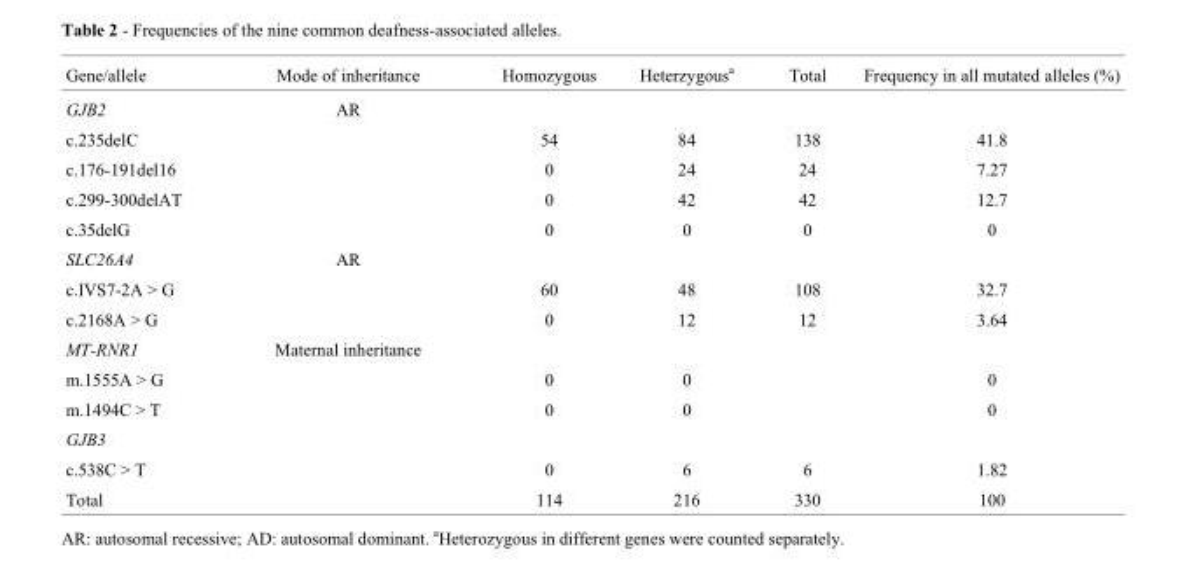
<table><thead><tr><td>Gene/allele</td><td>Mode of inheritance</td><td>Homozygous</td><td>Heterzygous<sup>a</sup></td><td>Total</td><td>Frequency in all mutated alleles (%)</td></tr></thead><tbody><tr><td>GJB2</td><td>AR</td><td></td><td></td><td></td><td></td></tr><tr><td>c.235delC</td><td></td><td>54</td><td>84</td><td>138</td><td>41.8</td></tr><tr><td>c.176-191del16</td><td></td><td>0</td><td>24</td><td>24</td><td>7.27</td></tr><tr><td>c.299-300delAT</td><td></td><td>0</td><td>42</td><td>42</td><td>12.7</td></tr><tr><td>c.35delG</td><td></td><td>0</td><td>0</td><td>0</td><td>0</td></tr><tr><td>SLC26A4</td><td>AR</td><td></td><td></td><td></td><td></td></tr><tr><td>c.IVS7-2A &gt; G</td><td></td><td>60</td><td>48</td><td>108</td><td>32.7</td></tr><tr><td>c.2168A &gt; G</td><td></td><td>0</td><td>12</td><td>12</td><td>3.64</td></tr><tr><td>MT-RNR1</td><td>Maternal inheritance</td><td></td><td></td><td></td><td></td></tr><tr><td>m.1555A &gt; G</td><td></td><td>0</td><td>0</td><td></td><td>0</td></tr><tr><td>m.1494C &gt; T</td><td></td><td>0</td><td>0</td><td></td><td>0</td></tr><tr><td colspan="6">GJB3</td></tr><tr><td>c.538C &gt; T</td><td></td><td>0</td><td>6</td><td>6</td><td>1.82</td></tr><tr><td>Total</td><td></td><td>114</td><td>216</td><td>330</td><td>100</td></tr></tbody></table>